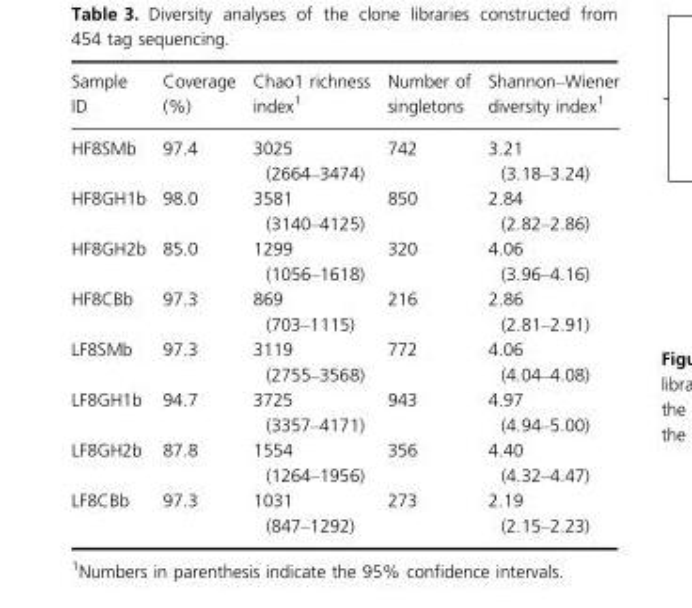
<table><thead><tr><td>Sample ID</td><td>Coverage (%)</td><td>Chao1 richness index<sup>1</sup></td><td>Number of singletons</td><td>Shannon–Wiener diversity index<sup>1</sup></td></tr></thead><tbody><tr><td>HF8SMb</td><td>97.4</td><td>3025 (2664–3474)</td><td>742</td><td>3.21 (3.18–3.24)</td></tr><tr><td>HF8GH1b</td><td>98.0</td><td>3581 (3140–4125)</td><td>850</td><td>2.84 (2.82–2.86)</td></tr><tr><td>HF8GH2b</td><td>85.0</td><td>1299 (1056–1618)</td><td>320</td><td>4.06 (3.96–4.16)</td></tr><tr><td>HF8CBb</td><td>97.3</td><td>869 (703–1115)</td><td>216</td><td>2.86 (2.81–2.91)</td></tr><tr><td>LF8SMb</td><td>97.3</td><td>3119 (2755–3568)</td><td>772</td><td>4.06 (4.04–4.08)</td></tr><tr><td>LF8GH1b</td><td>94.7</td><td>3725 (3357–4171)</td><td>943</td><td>4.97 (4.94–5.00)</td></tr><tr><td>LF8GH2b</td><td>87.8</td><td>1554 (1264–1956)</td><td>356</td><td>4.40 (4.32–4.47)</td></tr><tr><td>LF8CBb</td><td>97.3</td><td>1031 (847–1292)</td><td>273</td><td>2.19 (2.15–2.23)</td></tr></tbody></table>